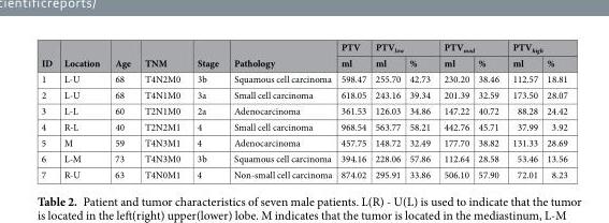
<table><thead><tr><td rowspan="2">ID</td><td rowspan="2">Location</td><td rowspan="2">Age</td><td rowspan="2">TNM</td><td rowspan="2">Stage</td><td rowspan="2">Pathology</td><td rowspan="2">PTV ml</td><td colspan="2">PTV<sub>low</sub></td><td colspan="2">PTV<sub>mod</sub></td><td colspan="2">PTV<sub>high</sub></td></tr><tr><td>ml</td><td>%</td><td>ml</td><td>%</td><td>ml</td><td>%</td></tr></thead><tbody><tr><td>1</td><td>L-U</td><td>68</td><td>T4N2M0</td><td>3b</td><td>Squamous cell carcinoma</td><td>598.47</td><td>255.70</td><td>42.73</td><td>230.20</td><td>38.46</td><td>112.57</td><td>18.81</td></tr><tr><td>2</td><td>L-U</td><td>68</td><td>T4N1M0</td><td>3a</td><td>Small cell carcinoma</td><td>618.05</td><td>243.16</td><td>39.34</td><td>201.39</td><td>32.59</td><td>173.50</td><td>28.07</td></tr><tr><td>3</td><td>L-L</td><td>60</td><td>T2N1M0</td><td>2a</td><td>Adenocarcinoma</td><td>361.53</td><td>126.03</td><td>34.86</td><td>147.22</td><td>40.72</td><td>88.28</td><td>24.42</td></tr><tr><td>4</td><td>R-L</td><td>40</td><td>T2N2M1</td><td>4</td><td>Small cell carcinoma</td><td>968.54</td><td>563.77</td><td>58.21</td><td>442.76</td><td>45.71</td><td>37.99</td><td>3.92</td></tr><tr><td>5</td><td>M</td><td>59</td><td>T4N3M1</td><td>4</td><td>Adenocarcinoma</td><td>457.75</td><td>148.72</td><td>32.49</td><td>177.70</td><td>38.82</td><td>131.33</td><td>28.69</td></tr><tr><td>6</td><td>L-M</td><td>73</td><td>T4N3M0</td><td>3b</td><td>Squamous cell carcinoma</td><td>394.16</td><td>228.06</td><td>57.86</td><td>112.64</td><td>28.58</td><td>53.46</td><td>13.56</td></tr><tr><td>7</td><td>R-U</td><td>63</td><td>T4N0M1</td><td>4</td><td>Non-small cell carcinoma</td><td>874.02</td><td>295.91</td><td>33.86</td><td>506.10</td><td>57.90</td><td>72.01</td><td>8.23</td></tr></tbody></table>